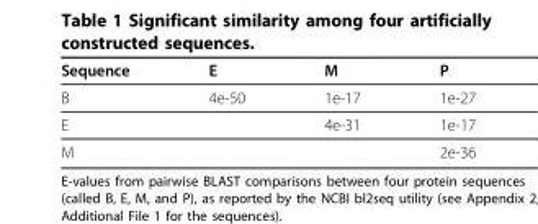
<table><thead><tr><td>Sequence</td><td>E</td><td>M</td><td>P</td></tr></thead><tbody><tr><td>B</td><td>4e-50</td><td>1e-17</td><td>1e-27</td></tr><tr><td>E</td><td></td><td>4e-31</td><td>1e-17</td></tr><tr><td>M</td><td></td><td></td><td>2e-36</td></tr></tbody></table>